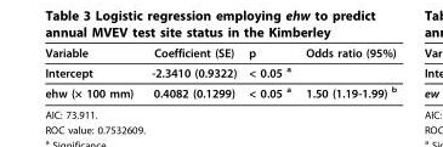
<table><thead><tr><td>Variable</td><td>Coefficient (SE)</td><td>p</td><td>Odds ratio (95%)</td></tr></thead><tbody><tr><td>Intercept</td><td>-2.3410 (0.9322)</td><td>&lt; 0.05 <sup>a</sup></td><td></td></tr><tr><td>ehw (× 100 mm)</td><td>0.4082 (0.1299)</td><td>&lt; 0.05 <sup>a</sup></td><td>1.50 (1.19-1.99) <sup>b</sup></td></tr></tbody></table>